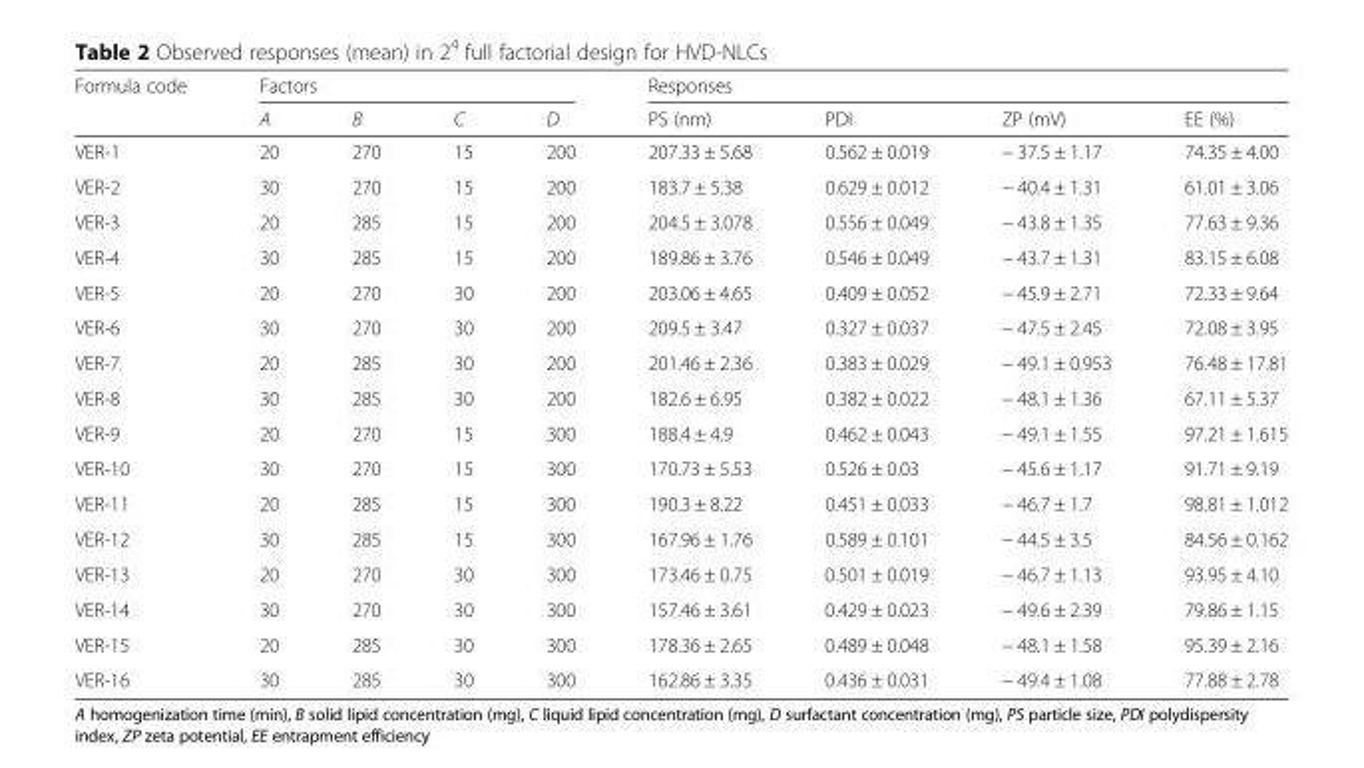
<table><thead><tr><td rowspan="2">Formula code</td><td colspan="4">Factors</td><td colspan="4">Responses</td></tr><tr><td>A</td><td>B</td><td>C</td><td>D</td><td>PS (nm)</td><td>PDI</td><td>ZP (mV)</td><td>EE (%)</td></tr></thead><tbody><tr><td>VER-1</td><td>20</td><td>270</td><td>15</td><td>200</td><td>207.33 ± 5.68</td><td>0.562 ± 0.019</td><td>− 37.5 ± 1.17</td><td>74.35 ± 4.00</td></tr><tr><td>VER-2</td><td>30</td><td>270</td><td>15</td><td>200</td><td>183.7 ± 5.38</td><td>0.629 ± 0.012</td><td>− 40.4 ± 1.31</td><td>61.01 ± 3.06</td></tr><tr><td>VER-3</td><td>20</td><td>285</td><td>15</td><td>200</td><td>204.5 ± 3.078</td><td>0.556 ± 0.049</td><td>− 43.8 ± 1.35</td><td>77.63 ± 9.36</td></tr><tr><td>VER-4</td><td>30</td><td>285</td><td>15</td><td>200</td><td>189.86 ± 3.76</td><td>0.546 ± 0.049</td><td>− 43.7 ± 1.31</td><td>83.15 ± 6.08</td></tr><tr><td>VER-5</td><td>20</td><td>270</td><td>30</td><td>200</td><td>203.06 ± 4.65</td><td>0.409 ± 0.052</td><td>− 45.9 ± 2.71</td><td>72.33 ± 9.64</td></tr><tr><td>VER-6</td><td>30</td><td>270</td><td>30</td><td>200</td><td>209.5 ± 3.47</td><td>0.327 ± 0.037</td><td>− 47.5 ± 2.45</td><td>72.08 ± 3.95</td></tr><tr><td>VER-7</td><td>20</td><td>285</td><td>30</td><td>200</td><td>201.46 ± 2.36</td><td>0.383 ± 0.029</td><td>− 49.1 ± 0.953</td><td>76.48 ± 17.81</td></tr><tr><td>VER-8</td><td>30</td><td>285</td><td>30</td><td>200</td><td>182.6 ± 6.95</td><td>0.382 ± 0.022</td><td>− 48.1 ± 1.36</td><td>67.11 ± 5.37</td></tr><tr><td>VER-9</td><td>20</td><td>270</td><td>15</td><td>300</td><td>188.4 ± 4.9</td><td>0.462 ± 0.043</td><td>− 49.1 ± 1.55</td><td>97.21 ± 1.615</td></tr><tr><td>VER-10</td><td>30</td><td>270</td><td>15</td><td>300</td><td>170.73 ± 5.53</td><td>0.526 ± 0.03</td><td>− 45.6 ± 1.17</td><td>91.71 ± 9.19</td></tr><tr><td>VER-11</td><td>20</td><td>285</td><td>15</td><td>300</td><td>190.3 ± 8.22</td><td>0.451 ± 0.033</td><td>− 46.7 ± 1.7</td><td>98.81 ± 1.012</td></tr><tr><td>VER-12</td><td>30</td><td>285</td><td>15</td><td>300</td><td>167.96 ± 1.76</td><td>0.589 ± 0.101</td><td>− 44.5 ± 3.5</td><td>84.56 ± 0.162</td></tr><tr><td>VER-13</td><td>20</td><td>270</td><td>30</td><td>300</td><td>173.46 ± 0.75</td><td>0.501 ± 0.019</td><td>− 46.7 ± 1.13</td><td>93.95 ± 4.10</td></tr><tr><td>VER-14</td><td>30</td><td>270</td><td>30</td><td>300</td><td>157.46 ± 3.61</td><td>0.429 ± 0.023</td><td>− 49.6 ± 2.39</td><td>79.86 ± 1.15</td></tr><tr><td>VER-15</td><td>20</td><td>285</td><td>30</td><td>300</td><td>178.36 ± 2.65</td><td>0.489 ± 0.048</td><td>− 48.1 ± 1.58</td><td>95.39 ± 2.16</td></tr><tr><td>VER-16</td><td>30</td><td>285</td><td>30</td><td>300</td><td>162.86 ± 3.35</td><td>0.436 ± 0.031</td><td>− 49.4 ± 1.08</td><td>77.88 ± 2.78</td></tr></tbody></table>